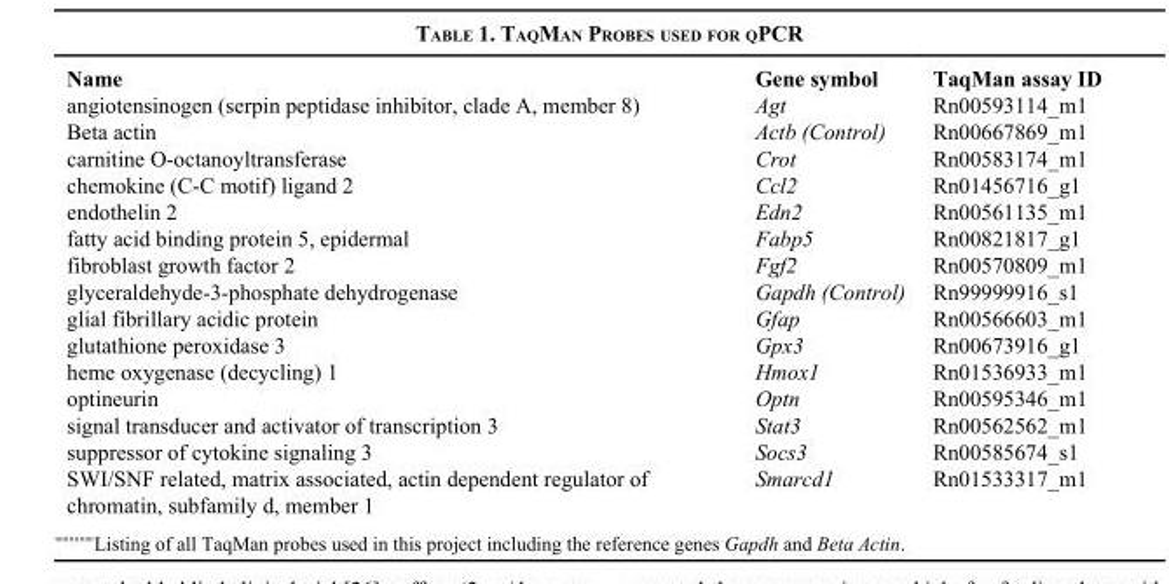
<table><thead><tr><td>Name</td><td>Gene symbol</td><td>TaqMan assay ID</td></tr></thead><tbody><tr><td>angiotensinogen (serpin peptidase inhibitor, clade A, member 8)</td><td>Agt</td><td>Rn00593114_m1</td></tr><tr><td>Beta actin</td><td>Actb (Control)</td><td>Rn00667869_m1</td></tr><tr><td>carnitine O-octanoyltransferase</td><td>Crot</td><td>Rn00583174_m1</td></tr><tr><td>chemokine (C-C motif) ligand 2</td><td>Ccl2</td><td>Rn01456716_g1</td></tr><tr><td>endothelin 2</td><td>Edn2</td><td>Rn00561135_m1</td></tr><tr><td>fatty acid binding protein 5, epidermal</td><td>Fabp5</td><td>Rn00821817_g1</td></tr><tr><td>fibroblast growth factor 2</td><td>Fgf2</td><td>Rn00570809_m1</td></tr><tr><td>glyceraldehyde-3-phosphate dehydrogenase</td><td>Gapdh (Control)</td><td>Rn99999916_s1</td></tr><tr><td>glial fibrillary acidic protein</td><td>Gfap</td><td>Rn00566603_m1</td></tr><tr><td>glutathione peroxidase 3</td><td>Gpx3</td><td>Rn00673916_g1</td></tr><tr><td>heme oxygenase (decycling) 1</td><td>Hmox1</td><td>Rn01536933_m1</td></tr><tr><td>optineurin</td><td>Optn</td><td>Rn00595346_m1</td></tr><tr><td>signal transducer and activator of transcription 3</td><td>Stat3</td><td>Rn00562562_m1</td></tr><tr><td>suppressor of cytokine signaling 3</td><td>Socs3</td><td>Rn00585674_s1</td></tr><tr><td>SWI/SNF related, matrix associated, actin dependent regulator of chromatin, subfamily d, member 1</td><td>Smarcd1</td><td>Rn01533317_m1</td></tr></tbody></table>